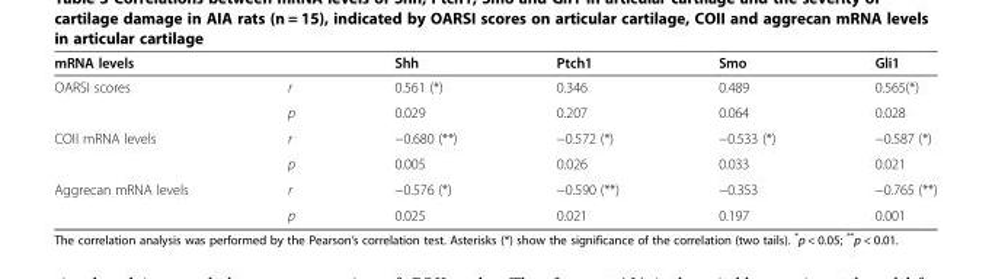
<table><thead><tr><td>mRNA levels</td><td></td><td>Shh</td><td>Ptch1</td><td>Smo</td><td>Gli1</td></tr></thead><tbody><tr><td rowspan="2">OARSI scores</td><td>r</td><td>0.561 (*)</td><td>0.346</td><td>0.489</td><td>0.565(*)</td></tr><tr><td>p</td><td>0.029</td><td>0.207</td><td>0.064</td><td>0.028</td></tr><tr><td rowspan="2">COII mRNA levels</td><td>r</td><td>−0.680 (**)</td><td>−0.572 (*)</td><td>−0.533 (*)</td><td>−0.587 (*)</td></tr><tr><td>p</td><td>0.005</td><td>0.026</td><td>0.033</td><td>0.021</td></tr><tr><td rowspan="2">Aggrecan mRNA levels</td><td>r</td><td>−0.576 (*)</td><td>−0.590 (**)</td><td>−0.353</td><td>−0.765 (**)</td></tr><tr><td>p</td><td>0.025</td><td>0.021</td><td>0.197</td><td>0.001</td></tr></tbody></table>